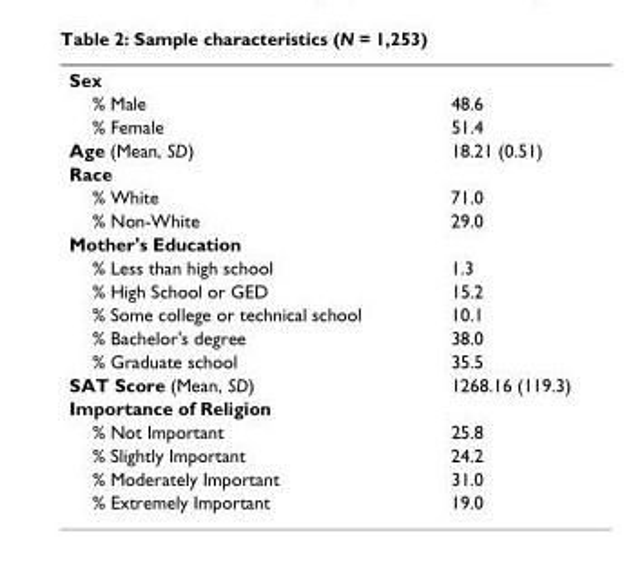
<table><tbody><tr><td colspan="2">Sex</td></tr><tr><td>% Male</td><td>48.6</td></tr><tr><td>% Female</td><td>51.4</td></tr><tr><td>Age (Mean, SD)</td><td>18.21 (0.51)</td></tr><tr><td colspan="2">Race</td></tr><tr><td>% White</td><td>71.0</td></tr><tr><td>% Non-White</td><td>29.0</td></tr><tr><td colspan="2">Mother&#x27;s Education</td></tr><tr><td>% Less than high school</td><td>1.3</td></tr><tr><td>% High School or GED</td><td>15.2</td></tr><tr><td>% Some college or technical school</td><td>10.1</td></tr><tr><td>% Bachelor&#x27;s degree</td><td>38.0</td></tr><tr><td>% Graduate school</td><td>35.5</td></tr><tr><td>SAT Score (Mean, SD)</td><td>1268.16 (119.3)</td></tr><tr><td colspan="2">Importance of Religion</td></tr><tr><td>% Not Important</td><td>25.8</td></tr><tr><td>% Slightly Important</td><td>24.2</td></tr><tr><td>% Moderately Important</td><td>31.0</td></tr><tr><td>% Extremely Important</td><td>19.0</td></tr></tbody></table>